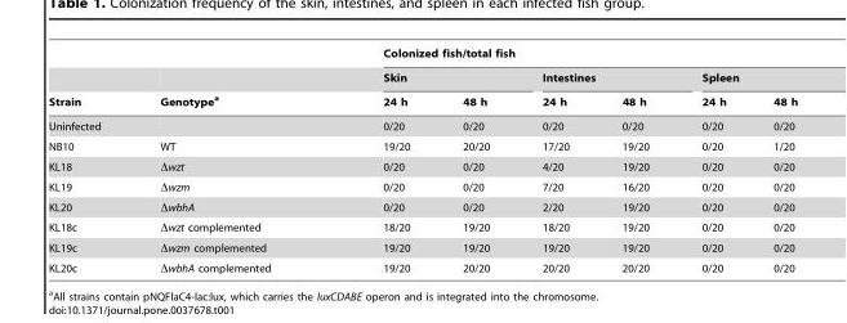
<table><thead><tr><td rowspan="3">Strain</td><td rowspan="3">Genotype<sup>a</sup></td><td colspan="6">Colonized fish/total fish</td></tr><tr><td colspan="2">Skin</td><td colspan="2">Intestines</td><td colspan="2">Spleen</td></tr><tr><td>24 h</td><td>48 h</td><td>24 h</td><td>48 h</td><td>24 h</td><td>48 h</td></tr></thead><tbody><tr><td>Uninfected</td><td></td><td>0/20</td><td>0/20</td><td>0/20</td><td>0/20</td><td>0/20</td><td>0/20</td></tr><tr><td>NB10</td><td>WT</td><td>19/20</td><td>20/20</td><td>17/20</td><td>19/20</td><td>0/20</td><td>1/20</td></tr><tr><td>KL18</td><td>Δwzt</td><td>0/20</td><td>0/20</td><td>4/20</td><td>19/20</td><td>0/20</td><td>0/20</td></tr><tr><td>KL19</td><td>Δwzm</td><td>0/20</td><td>0/20</td><td>7/20</td><td>16/20</td><td>0/20</td><td>0/20</td></tr><tr><td>KL20</td><td>ΔwbhA</td><td>0/20</td><td>0/20</td><td>2/20</td><td>19/20</td><td>0/20</td><td>0/20</td></tr><tr><td>KL18c</td><td>Δwzt complemented</td><td>18/20</td><td>19/20</td><td>18/20</td><td>19/20</td><td>0/20</td><td>0/20</td></tr><tr><td>KL19c</td><td>Δwzm complemented</td><td>19/20</td><td>19/20</td><td>19/20</td><td>19/20</td><td>0/20</td><td>0/20</td></tr><tr><td>KL20c</td><td>ΔwbhA complemented</td><td>19/20</td><td>20/20</td><td>20/20</td><td>20/20</td><td>0/20</td><td>0/20</td></tr></tbody></table>